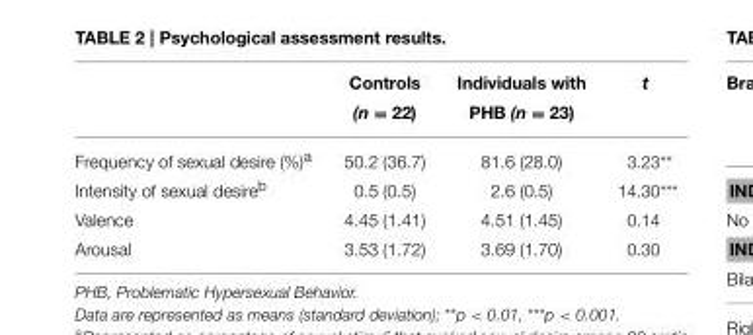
<table><thead><tr><td></td><td>Controls (n = 22)</td><td>Individuals with PHB (n = 23)</td><td>t</td></tr></thead><tbody><tr><td>Frequency of sexual desire (%)<sup>a</sup></td><td>50.2 (36.7)</td><td>81.6 (28.0)</td><td>3.23**</td></tr><tr><td>Intensity of sexual desire<sup>b</sup></td><td>0.5 (0.5)</td><td>2.6 (0.5)</td><td>14.30***</td></tr><tr><td>Valence</td><td>4.45 (1.41)</td><td>4.51 (1.45)</td><td>0.14</td></tr><tr><td>Arousal</td><td>3.53 (1.72)</td><td>3.69 (1.70)</td><td>0.30</td></tr></tbody></table>